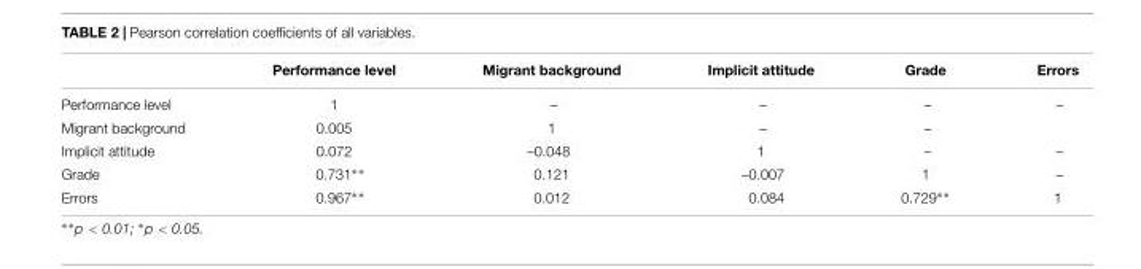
<table><thead><tr><td></td><td>Performance level</td><td>Migrant background</td><td>Implicit attitude</td><td>Grade</td><td>Errors</td></tr></thead><tbody><tr><td>Performance level</td><td>1</td><td>–</td><td>–</td><td>–</td><td>–</td></tr><tr><td>Migrant background</td><td>0.005</td><td>1</td><td>–</td><td>–</td><td></td></tr><tr><td>Implicit attitude</td><td>0.072</td><td>–0.048</td><td>1</td><td>–</td><td>–</td></tr><tr><td>Grade</td><td>0.731∗∗</td><td>0.121</td><td>–0.007</td><td>1</td><td>–</td></tr><tr><td>Errors</td><td>0.967∗∗</td><td>0.012</td><td>0.084</td><td>0.729∗∗</td><td>1</td></tr></tbody></table>